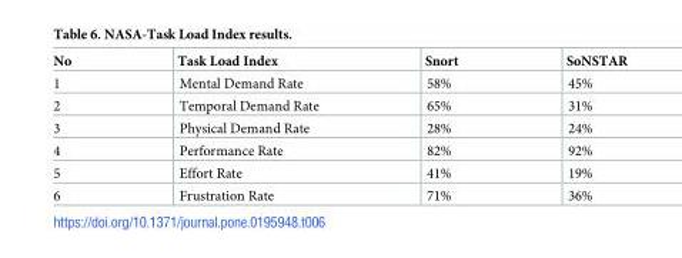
<table><thead><tr><td>No</td><td>Task Load Index</td><td>Snort</td><td>SoNSTAR</td></tr></thead><tbody><tr><td>1</td><td>Mental Demand Rate</td><td>58%</td><td>45%</td></tr><tr><td>2</td><td>Temporal Demand Rate</td><td>65%</td><td>31%</td></tr><tr><td>3</td><td>Physical Demand Rate</td><td>28%</td><td>24%</td></tr><tr><td>4</td><td>Performance Rate</td><td>82%</td><td>92%</td></tr><tr><td>5</td><td>Effort Rate</td><td>41%</td><td>19%</td></tr><tr><td>6</td><td>Frustration Rate</td><td>71%</td><td>36%</td></tr></tbody></table>